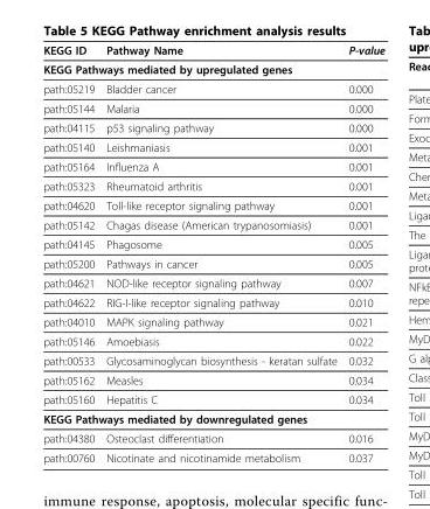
<table><thead><tr><td>KEGG ID</td><td>Pathway Name</td><td>P-value</td></tr></thead><tbody><tr><td colspan="3">KEGG Pathways mediated by upregulated genes</td></tr><tr><td>path:05219</td><td>Bladder cancer</td><td>0.000</td></tr><tr><td>path:05144</td><td>Malaria</td><td>0.000</td></tr><tr><td>path:04115</td><td>p53 signaling pathway</td><td>0.000</td></tr><tr><td>path:05140</td><td>Leishmaniasis</td><td>0.001</td></tr><tr><td>path:05164</td><td>Influenza A</td><td>0.001</td></tr><tr><td>path:05323</td><td>Rheumatoid arthritis</td><td>0.001</td></tr><tr><td>path:04620</td><td>Toll-like receptor signaling pathway</td><td>0.001</td></tr><tr><td>path:05142</td><td>Chagas disease (American trypanosomiasis)</td><td>0.001</td></tr><tr><td>path:04145</td><td>Phagosome</td><td>0.005</td></tr><tr><td>path:05200</td><td>Pathways in cancer</td><td>0.005</td></tr><tr><td>path:04621</td><td>NOD-like receptor signaling pathway</td><td>0.007</td></tr><tr><td>path:04622</td><td>RIG-I-like receptor signaling pathway</td><td>0.010</td></tr><tr><td>path:04010</td><td>MAPK signaling pathway</td><td>0.021</td></tr><tr><td>path:05146</td><td>Amoebiasis</td><td>0.022</td></tr><tr><td>path:00533</td><td>Glycosaminoglycan biosynthesis - keratan sulfate</td><td>0.032</td></tr><tr><td>path:05162</td><td>Measles</td><td>0.034</td></tr><tr><td>path:05160</td><td>Hepatitis C</td><td>0.034</td></tr><tr><td colspan="3">KEGG Pathways mediated by downregulated genes</td></tr><tr><td>path:04380</td><td>Osteoclast differentiation</td><td>0.016</td></tr><tr><td>path:00760</td><td>Nicotinate and nicotinamide metabolism</td><td>0.037</td></tr></tbody></table>